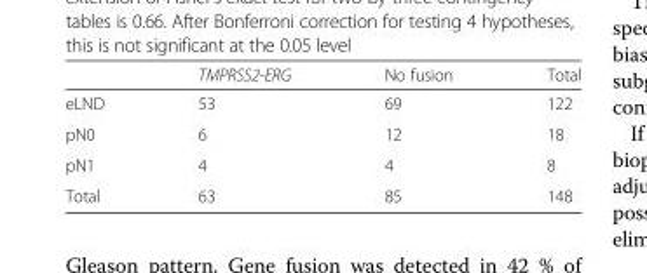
<table><thead><tr><td></td><td>TMPRSS2-ERG</td><td>No fusion</td><td>Total</td></tr></thead><tbody><tr><td>eLND</td><td>53</td><td>69</td><td>122</td></tr><tr><td>pN0</td><td>6</td><td>12</td><td>18</td></tr><tr><td>pN1</td><td>4</td><td>4</td><td>8</td></tr><tr><td>Total</td><td>63</td><td>85</td><td>148</td></tr></tbody></table>